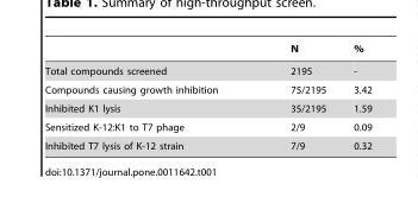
<table><thead><tr><td></td><td>N</td><td>%</td></tr></thead><tbody><tr><td>Total compounds screened</td><td>2195</td><td>-</td></tr><tr><td>Compounds causing growth inhibition</td><td>75/2195</td><td>3.42</td></tr><tr><td>Inhibited K1 lysis</td><td>35/2195</td><td>1.59</td></tr><tr><td>Sensitized K-12:K1 to T7 phage</td><td>2/9</td><td>0.09</td></tr><tr><td>Inhibited T7 lysis of K-12 strain</td><td>7/9</td><td>0.32</td></tr></tbody></table>